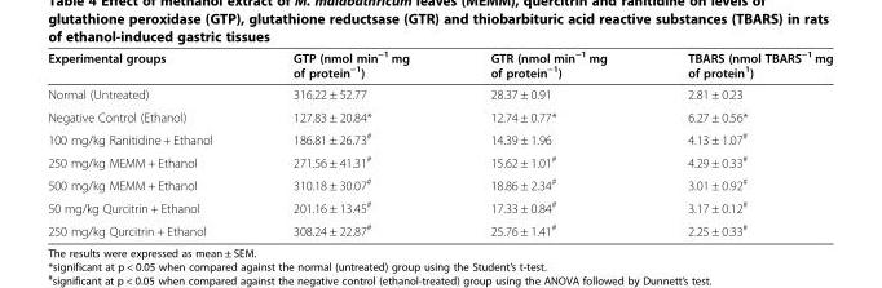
<table><thead><tr><td>Experimental groups</td><td>GTP (nmol min<sup>−1</sup> mg of protein<sup>−1</sup>)</td><td>GTR (nmol min<sup>−1</sup> mg of protein<sup>−1</sup>)</td><td>TBARS (nmol TBARS<sup>−1</sup> mg of protein<sup>1</sup>)</td></tr></thead><tbody><tr><td>Normal (Untreated)</td><td>316.22 ± 52.77</td><td>28.37 ± 0.91</td><td>2.81 ± 0.23</td></tr><tr><td>Negative Control (Ethanol)</td><td>127.83 ± 20.84*</td><td>12.74 ± 0.77*</td><td>6.27 ± 0.56*</td></tr><tr><td>100 mg/kg Ranitidine + Ethanol</td><td>186.81 ± 26.73<sup>#</sup></td><td>14.39 ± 1.96</td><td>4.13 ± 1.07<sup>#</sup></td></tr><tr><td>250 mg/kg MEMM + Ethanol</td><td>271.56 ± 41.31<sup>#</sup></td><td>15.62 ± 1.01<sup>#</sup></td><td>4.29 ± 0.33<sup>#</sup></td></tr><tr><td>500 mg/kg MEMM + Ethanol</td><td>310.18 ± 30.07<sup>#</sup></td><td>18.86 ± 2.34<sup>#</sup></td><td>3.01 ± 0.92<sup>#</sup></td></tr><tr><td>50 mg/kg Qurcitrin + Ethanol</td><td>201.16 ± 13.45<sup>#</sup></td><td>17.33 ± 0.84<sup>#</sup></td><td>3.17 ± 0.12<sup>#</sup></td></tr><tr><td>250 mg/kg Qurcitrin + Ethanol</td><td>308.24 ± 22.87<sup>#</sup></td><td>25.76 ± 1.41<sup>#</sup></td><td>2.25 ± 0.33<sup>#</sup></td></tr></tbody></table>